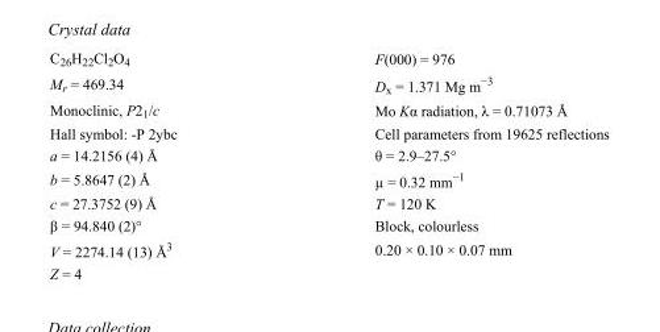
<table><tbody><tr><td>C<sub>26</sub>H<sub>22</sub>Cl<sub>2</sub>O<sub>4</sub></td><td>F(000) = 976</td></tr><tr><td>M<sub>r</sub> = 469.34</td><td>D<sub>x</sub> = 1.371 Mg m<sup>−3</sup></td></tr><tr><td>Monoclinic, P2<sub>1</sub>/c</td><td>Mo Kα radiation, λ = 0.71073 Å</td></tr><tr><td>Hall symbol: -P 2ybc</td><td>Cell parameters from 19625 reflections</td></tr><tr><td>a = 14.2156 (4) Å</td><td>θ = 2.9–27.5°</td></tr><tr><td>b = 5.8647 (2) Å</td><td>µ = 0.32 mm<sup>−1</sup></td></tr><tr><td>c = 27.3752 (9) Å</td><td>T = 120 K</td></tr><tr><td>β = 94.840 (2)°</td><td>Block, colourless</td></tr><tr><td>V = 2274.14 (13) Å<sup>3</sup></td><td>0.20 × 0.10 × 0.07 mm</td></tr><tr><td>Z = 4</td><td></td></tr></tbody></table>